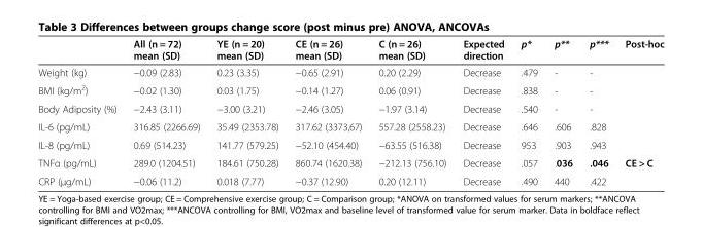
<table><thead><tr><td></td><td>All (n = 72) mean (SD)</td><td>YE (n = 20) mean (SD)</td><td>CE (n = 26) mean (SD)</td><td>C (n = 26) mean (SD)</td><td>Expected direction</td><td>p*</td><td>p**</td><td>p***</td><td>Post-hoc</td></tr></thead><tbody><tr><td>Weight (kg)</td><td>−0.09 (2.83)</td><td>0.23 (3.35)</td><td>−0.65 (2.91)</td><td>0.20 (2.29)</td><td>Decrease</td><td>.479</td><td>-</td><td>-</td><td></td></tr><tr><td>BMI (kg/m<sup>2</sup>)</td><td>−0.02 (1.30)</td><td>0.03 (1.75)</td><td>−0.14 (1.27)</td><td>0.06 (0.91)</td><td>Decrease</td><td>.838</td><td>-</td><td>-</td><td></td></tr><tr><td>Body Adiposity (%)</td><td>−2.43 (3.11)</td><td>−3.00 (3.21)</td><td>−2.46 (3.05)</td><td>−1.97 (3.14)</td><td>Decrease</td><td>.540</td><td>-</td><td>-</td><td></td></tr><tr><td>IL-6 (pg/mL)</td><td>316.85 (2266.69)</td><td>35.49 (2353.78)</td><td>317.62 (3373,67)</td><td>557.28 (2558.23)</td><td>Decrease</td><td>.646</td><td>.606</td><td>.828</td><td></td></tr><tr><td>IL-8 (pg/mL)</td><td>0.69 (514.23)</td><td>141.77 (579.25)</td><td>−52.10 (454.40)</td><td>−63.55 (516.38)</td><td>Decrease</td><td>953</td><td>.903</td><td>.943</td><td></td></tr><tr><td>TNFα (pg/mL)</td><td>289.0 (1204.51)</td><td>184.61 (750.28)</td><td>860.74 (1620.38)</td><td>−212.13 (756.10)</td><td>Decrease</td><td>.057</td><td>.036</td><td>.046</td><td>CE &gt; C</td></tr><tr><td>CRP (μg/mL)</td><td>−0.06 (11.2)</td><td>0.018 (7.77)</td><td>−0.37 (12.90)</td><td>0.20 (12.11)</td><td>Decrease</td><td>.490</td><td>440</td><td>.422</td><td></td></tr></tbody></table>